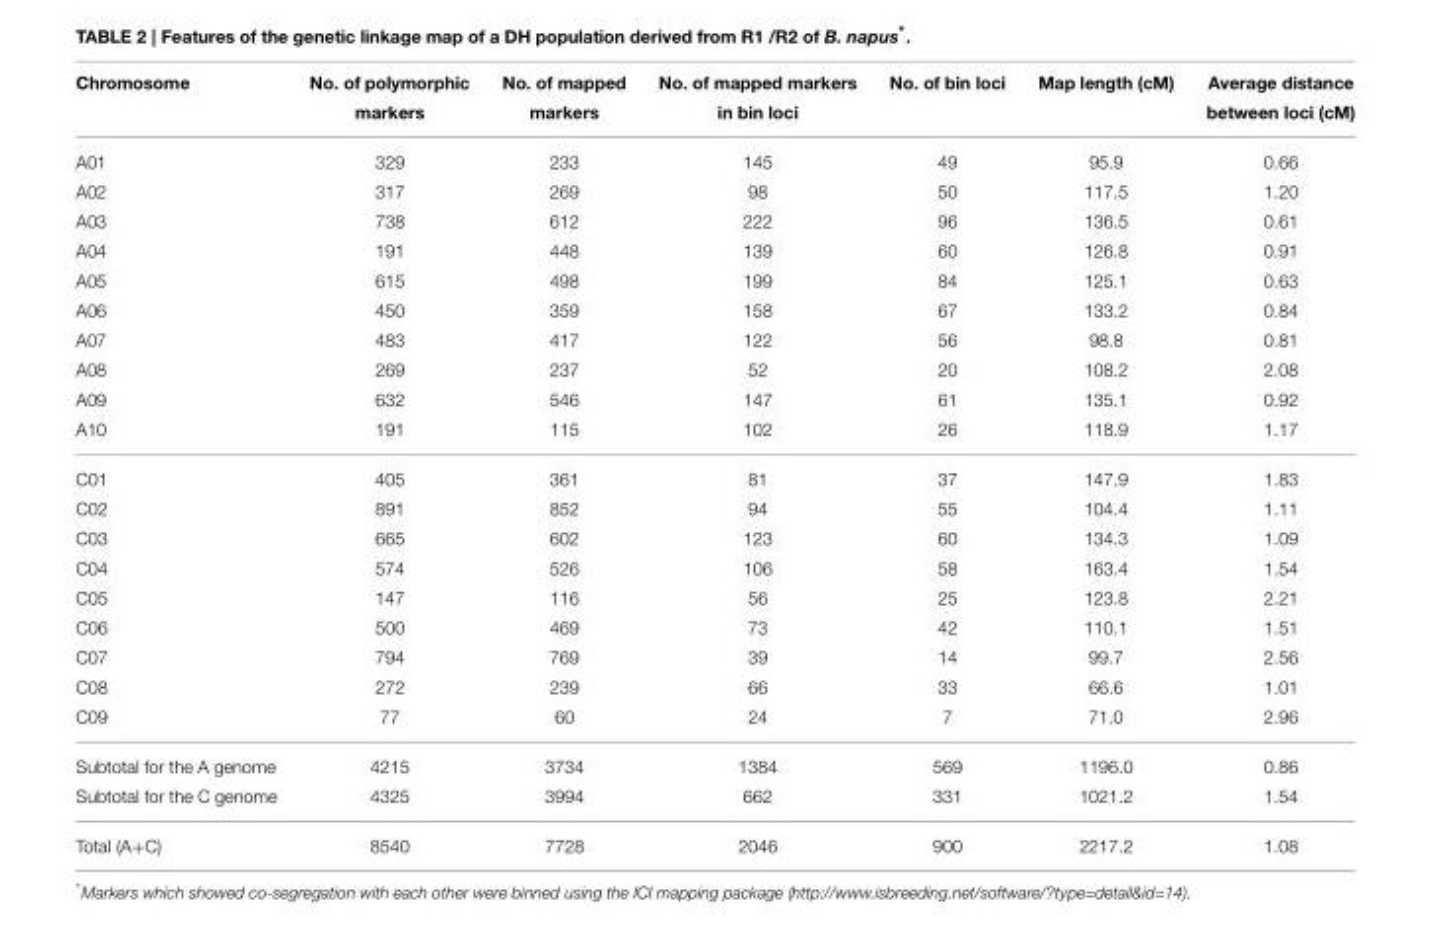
<table><thead><tr><td>Chromosome</td><td>No. of polymorphic markers</td><td>No. of mapped markers</td><td>No. of mapped markers in bin loci</td><td>No. of bin loci</td><td>Map length (cM)</td><td>Average distance between loci (cM)</td></tr></thead><tbody><tr><td>A01</td><td>329</td><td>233</td><td>145</td><td>49</td><td>95.9</td><td>0.66</td></tr><tr><td>A02</td><td>317</td><td>269</td><td>98</td><td>50</td><td>117.5</td><td>1.20</td></tr><tr><td>A03</td><td>738</td><td>612</td><td>222</td><td>96</td><td>136.5</td><td>0.61</td></tr><tr><td>A04</td><td>191</td><td>448</td><td>139</td><td>60</td><td>126.8</td><td>0.91</td></tr><tr><td>A05</td><td>615</td><td>498</td><td>199</td><td>84</td><td>125.1</td><td>0.63</td></tr><tr><td>A06</td><td>450</td><td>359</td><td>158</td><td>67</td><td>133.2</td><td>0.84</td></tr><tr><td>A07</td><td>483</td><td>417</td><td>122</td><td>56</td><td>98.8</td><td>0.81</td></tr><tr><td>A08</td><td>269</td><td>237</td><td>52</td><td>20</td><td>108.2</td><td>2.08</td></tr><tr><td>A09</td><td>632</td><td>546</td><td>147</td><td>61</td><td>135.1</td><td>0.92</td></tr><tr><td>A10</td><td>191</td><td>115</td><td>102</td><td>26</td><td>118.9</td><td>1.17</td></tr><tr><td>C01</td><td>405</td><td>361</td><td>81</td><td>37</td><td>147.9</td><td>1.83</td></tr><tr><td>C02</td><td>891</td><td>852</td><td>94</td><td>55</td><td>104.4</td><td>1.11</td></tr><tr><td>C03</td><td>665</td><td>602</td><td>123</td><td>60</td><td>134.3</td><td>1.09</td></tr><tr><td>C04</td><td>574</td><td>526</td><td>106</td><td>58</td><td>163.4</td><td>1.54</td></tr><tr><td>C05</td><td>147</td><td>116</td><td>56</td><td>25</td><td>123.8</td><td>2.21</td></tr><tr><td>C06</td><td>500</td><td>469</td><td>73</td><td>42</td><td>110.1</td><td>1.51</td></tr><tr><td>C07</td><td>794</td><td>769</td><td>39</td><td>14</td><td>99.7</td><td>2.56</td></tr><tr><td>C08</td><td>272</td><td>239</td><td>66</td><td>33</td><td>66.6</td><td>1.01</td></tr><tr><td>C09</td><td>77</td><td>60</td><td>24</td><td>7</td><td>71.0</td><td>2.96</td></tr><tr><td>Subtotal for the A genome</td><td>4215</td><td>3734</td><td>1384</td><td>569</td><td>1196.0</td><td>0.86</td></tr><tr><td>Subtotal for the C genome</td><td>4325</td><td>3994</td><td>662</td><td>331</td><td>1021.2</td><td>1.54</td></tr><tr><td>Total (A+C)</td><td>8540</td><td>7728</td><td>2046</td><td>900</td><td>2217.2</td><td>1.08</td></tr></tbody></table>